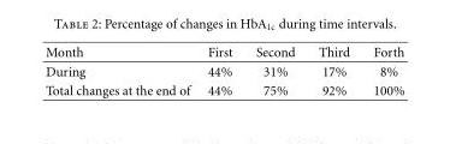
<table><thead><tr><td>Month</td><td>First</td><td>Second</td><td>Third</td><td>Forth</td></tr></thead><tbody><tr><td>During</td><td>44%</td><td>31%</td><td>17%</td><td>8%</td></tr><tr><td>Total changes at the end of</td><td>44%</td><td>75%</td><td>92%</td><td>100%</td></tr></tbody></table>